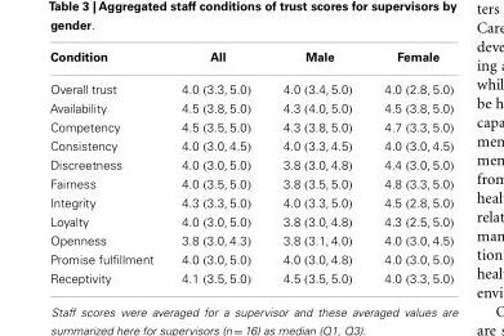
<table><thead><tr><td>Condition</td><td>All</td><td>Male</td><td>Female</td></tr></thead><tbody><tr><td>Overall trust</td><td>4.0 (3.3, 5.0)</td><td>4.0 (3.4, 5.0)</td><td>4.0 (2.8, 5.0)</td></tr><tr><td>Availability</td><td>4.5 (3.8, 5.0)</td><td>4.3 (4.0, 5.0)</td><td>4.5 (3.8, 5.0)</td></tr><tr><td>Competency</td><td>4.5 (3.5, 5.0)</td><td>4.3 (3.8, 5.0)</td><td>4.7 (3.3, 5.0)</td></tr><tr><td>Consistency</td><td>4.0 (3.0, 4.5)</td><td>4.0 (3.3, 4.5)</td><td>4.0 (3.0, 4.5)</td></tr><tr><td>Discreetness</td><td>4.0 (3.0, 5.0)</td><td>3.8 (3.0, 4.8)</td><td>4.4 (3.0, 5.0)</td></tr><tr><td>Fairness</td><td>4.0 (3.5, 5.0)</td><td>3.8 (3.5, 5.0)</td><td>4.8 (3.3, 5.0)</td></tr><tr><td>Integrity</td><td>4.3 (3.3, 5.0)</td><td>4.0 (3.3, 5.0)</td><td>4.5 (2.8, 5.0)</td></tr><tr><td>Loyalty</td><td>4.0 (3.0, 5.0)</td><td>3.8 (3.0, 4.8)</td><td>4.3 (2.5, 5.0)</td></tr><tr><td>Openness</td><td>3.8 (3.0, 4.3)</td><td>3.8 (3.1, 4.0)</td><td>4.0 (3.0, 4.5)</td></tr><tr><td>Promise fulfillment</td><td>4.0 (3.0, 5.0)</td><td>4.0 (3.0, 4.8)</td><td>4.0 (3.0, 5.0)</td></tr><tr><td>Receptivity</td><td>4.1 (3.5, 5.0)</td><td>4.5 (3.5, 5.0)</td><td>4.0 (3.3, 5.0)</td></tr></tbody></table>